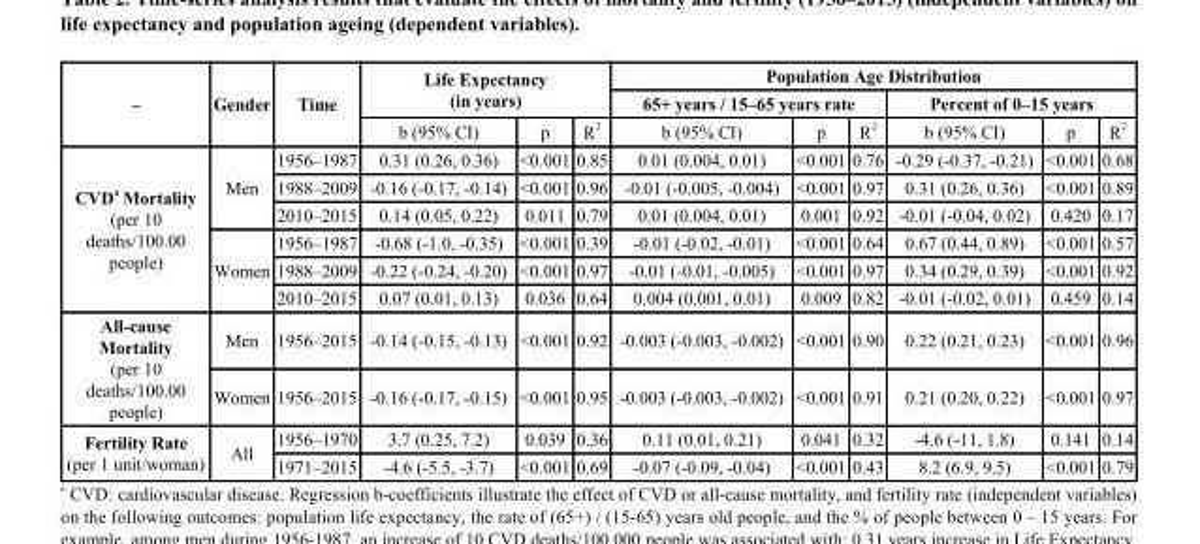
<table><thead><tr><td rowspan="3">–</td><td rowspan="3">Gender</td><td rowspan="3">Time</td><td rowspan="2" colspan="3">Life Expectancy (in years)</td><td colspan="6">Population Age Distribution</td></tr><tr><td colspan="3">65+ years / 15–65 years rate</td><td colspan="3">Percent of 0–15 years</td></tr><tr><td>b (95% CI)</td><td>p</td><td>R <sup>2</sup></td><td>b (95% CI)</td><td>p</td><td>R <sup>2</sup></td><td>b (95% CI)</td><td>p</td><td>R <sup>2</sup></td></tr></thead><tbody><tr><td rowspan="6">CVD <sup>a</sup> Mortality (per 10 deaths/100.00 people)</td><td rowspan="3">Men</td><td>1956–1987</td><td>0.31 (0.26, 0.36)</td><td>&lt;0.001</td><td>0.85</td><td>0.01 (0.004, 0.01)</td><td>&lt;0.001</td><td>0.76</td><td>-0.29 (-0.37, -0.21)</td><td>&lt;0.001</td><td>0.68</td></tr><tr><td>1988–2009</td><td>-0.16 (-0.17, -0.14)</td><td>&lt;0.001</td><td>0.96</td><td>-0.01 (-0.005, -0.004)</td><td>&lt;0.001</td><td>0.97</td><td>0.31 (0.26, 0.36)</td><td>&lt;0.001</td><td>0.89</td></tr><tr><td>2010–2015</td><td>0.14 (0.05, 0.22)</td><td>0.011</td><td>0.79</td><td>0.01 (0.004, 0.01)</td><td>0.001</td><td>0.92</td><td>-0.01 (-0.04, 0.02)</td><td>0.420</td><td>0.17</td></tr><tr><td rowspan="3">Women</td><td>1956–1987</td><td>-0.68 (-1.0, -0.35)</td><td>&lt;0.001</td><td>0.39</td><td>-0.01 (-0.02, -0.01)</td><td>&lt;0.001</td><td>0.64</td><td>0.67 (0.44, 0.89)</td><td>&lt;0.001</td><td>0.57</td></tr><tr><td>1988–2009</td><td>-0.22 (-0.24, -0.20)</td><td>&lt;0.001</td><td>0.97</td><td>-0.01 (-0.01, -0.005)</td><td>&lt;0.001</td><td>0.97</td><td>0.34 (0.29, 0.39)</td><td>&lt;0.001</td><td>0.92</td></tr><tr><td>2010–2015</td><td>0.07 (0.01, 0.13)</td><td>0.036</td><td>0.64</td><td>0.004 (0.001, 0.01)</td><td>0.009</td><td>0.82</td><td>-0.01 (-0.02, 0.01)</td><td>0.459</td><td>0.14</td></tr><tr><td rowspan="2">All-cause Mortality (per 10 deaths/100.00 people)</td><td>Men</td><td>1956–2015</td><td>-0.14 (-0.15, -0.13)</td><td>&lt;0.001</td><td>0.92</td><td>-0.003 (-0.003, -0.002)</td><td>&lt;0.001</td><td>0.90</td><td>0.22 (0.21, 0.23)</td><td>&lt;0.001</td><td>0.96</td></tr><tr><td>Women</td><td>1956–2015</td><td>-0.16 (-0.17, -0.15)</td><td>&lt;0.001</td><td>0.95</td><td>-0.003 (-0.003, -0.002)</td><td>&lt;0.001</td><td>0.91</td><td>0.21 (0.20, 0.22)</td><td>&lt;0.001</td><td>0.97</td></tr><tr><td rowspan="2">Fertility Rate (per 1 unit/woman)</td><td rowspan="2">All</td><td>1956–1970</td><td>3.7 (0.25, 7.2)</td><td>0.039</td><td>0.36</td><td>0.11 (0.01, 0.21)</td><td>0.041</td><td>0.32</td><td>-4.6 (-11, 1.8)</td><td>0.141</td><td>0.14</td></tr><tr><td>1971–2015</td><td>-4.6 (-5.5, -3.7)</td><td>&lt;0.001</td><td>0.69</td><td>-0.07 (-0.09, -0.04)</td><td>&lt;0.001</td><td>0.43</td><td>8.2 (6.9, 9.5)</td><td>&lt;0.001</td><td>0.79</td></tr></tbody></table>